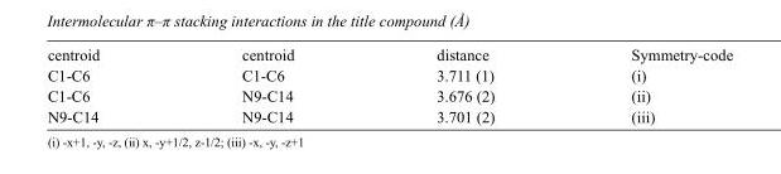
<table><tbody><tr><td>centroid</td><td>centroid</td><td>distance</td><td>Symmetry-code</td></tr><tr><td>C1-C6</td><td>C1-C6</td><td>3.711 (1)</td><td>(i)</td></tr><tr><td>C1-C6</td><td>N9-C14</td><td>3.676 (2)</td><td>(ii)</td></tr><tr><td>N9-C14</td><td>N9-C14</td><td>3.701 (2)</td><td>(iii)</td></tr></tbody></table>